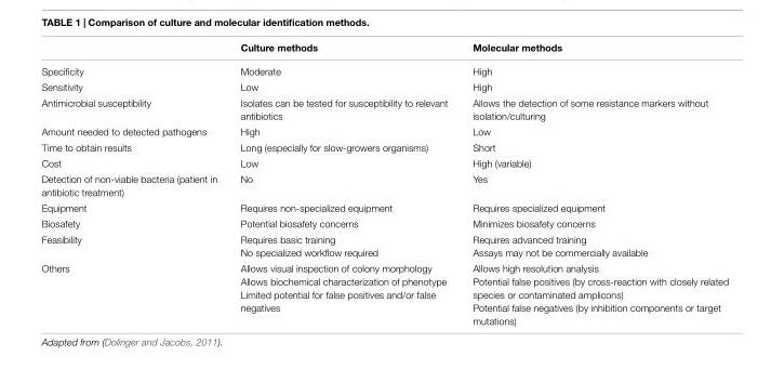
<table><thead><tr><td></td><td>Culture methods</td><td>Molecular methods</td></tr></thead><tbody><tr><td>Specificity</td><td>Moderate</td><td>High</td></tr><tr><td>Sensitivity</td><td>Low</td><td>High</td></tr><tr><td>Antimicrobial susceptibility</td><td>Isolates can be tested for susceptibility to relevant antibiotics</td><td>Allows the detection of some resistance markers without isolation/culturing</td></tr><tr><td>Amount needed to detected pathogens</td><td>High</td><td>Low</td></tr><tr><td>Time to obtain results</td><td>Long (especially for slow-growers organisms)</td><td>Short</td></tr><tr><td>Cost</td><td>Low</td><td>High (variable)</td></tr><tr><td>Detection of non-viable bacteria (patient in antibiotic treatment)</td><td>No</td><td>Yes</td></tr><tr><td>Equipment</td><td>Requires non-specialized equipment</td><td>Requires specialized equipment</td></tr><tr><td>Biosafety</td><td>Potential biosafety concerns</td><td>Minimizes biosafety concerns</td></tr><tr><td>Feasibility</td><td>Requires basic training No specialized workflow required</td><td>Requires advanced training Assays may not be commercially available</td></tr><tr><td>Others</td><td>Allows visual inspection of colony morphology Allows biochemical characterization of phenotype Limited potential for false positives and/or false negatives</td><td>Allows high resolution analysis Potential false positives (by cross-reaction with closely related species or contaminated amplicons) Potential false negatives (by inhibition components or target mutations)</td></tr></tbody></table>